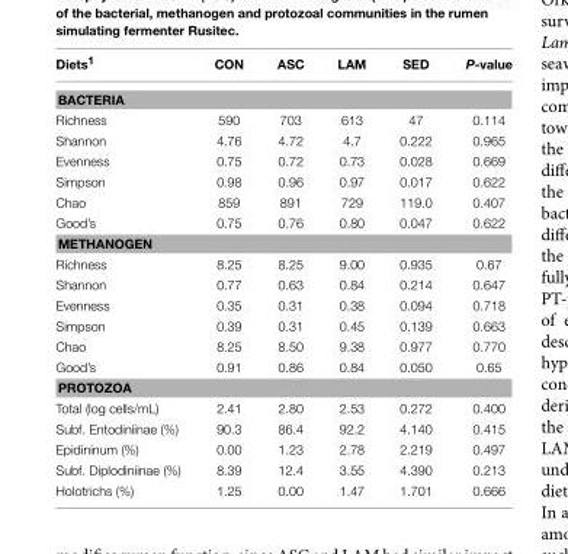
<table><thead><tr><td>Diets<sup>1</sup></td><td>CON</td><td>ASC</td><td>LAM</td><td>SED</td><td>P-value</td></tr></thead><tbody><tr><td colspan="6">BACTERIA</td></tr><tr><td>Richness</td><td>590</td><td>703</td><td>613</td><td>47</td><td>0.114</td></tr><tr><td>Shannon</td><td>4.76</td><td>4.72</td><td>4.7</td><td>0.222</td><td>0.965</td></tr><tr><td>Evenness</td><td>0.75</td><td>0.72</td><td>0.73</td><td>0.028</td><td>0.669</td></tr><tr><td>Simpson</td><td>0.98</td><td>0.96</td><td>0.97</td><td>0.017</td><td>0.622</td></tr><tr><td>Chao</td><td>859</td><td>891</td><td>729</td><td>119.0</td><td>0.407</td></tr><tr><td>Good’s</td><td>0.75</td><td>0.76</td><td>0.80</td><td>0.047</td><td>0.622</td></tr><tr><td colspan="6">METHANOGEN</td></tr><tr><td>Richness</td><td>8.25</td><td>8.25</td><td>9.00</td><td>0.935</td><td>0.67</td></tr><tr><td>Shannon</td><td>0.77</td><td>0.63</td><td>0.84</td><td>0.214</td><td>0.647</td></tr><tr><td>Evenness</td><td>0.35</td><td>0.31</td><td>0.38</td><td>0.094</td><td>0.718</td></tr><tr><td>Simpson</td><td>0.39</td><td>0.31</td><td>0.45</td><td>0.139</td><td>0.663</td></tr><tr><td>Chao</td><td>8.25</td><td>8.50</td><td>9.38</td><td>0.977</td><td>0.770</td></tr><tr><td>Good’s</td><td>0.91</td><td>0.86</td><td>0.84</td><td>0.050</td><td>0.65</td></tr><tr><td colspan="6">PROTOZOA</td></tr><tr><td>Total (log cells/mL)</td><td>2.41</td><td>2.80</td><td>2.53</td><td>0.272</td><td>0.400</td></tr><tr><td>Subf. Entodiniinae (%)</td><td>90.3</td><td>86.4</td><td>92.2</td><td>4.140</td><td>0.415</td></tr><tr><td>Epidininum (%)</td><td>0.00</td><td>1.23</td><td>2.78</td><td>2.219</td><td>0.497</td></tr><tr><td>Subf. Diplodiniinae (%)</td><td>8.39</td><td>12.4</td><td>3.55</td><td>4.390</td><td>0.213</td></tr><tr><td>Holotrichs (%)</td><td>1.25</td><td>0.00</td><td>1.47</td><td>1.701</td><td>0.666</td></tr></tbody></table>